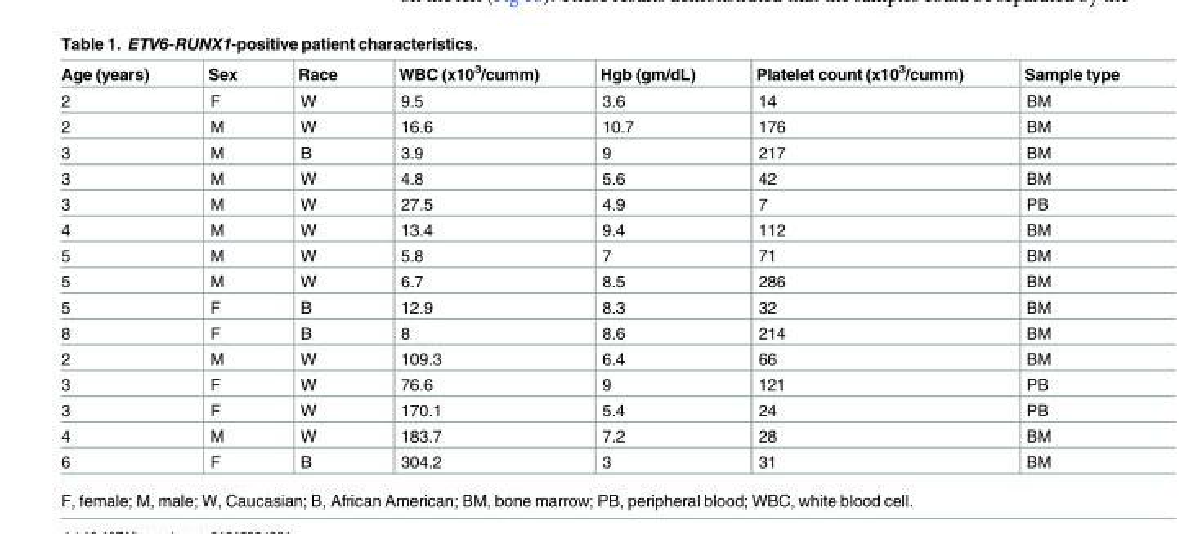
<table><thead><tr><td>Age (years)</td><td>Sex</td><td>Race</td><td>WBC (x10<sup>3</sup>/cumm)</td><td>Hgb (gm/dL)</td><td>Platelet count (x10<sup>3</sup>/cumm)</td><td>Sample type</td></tr></thead><tbody><tr><td>2</td><td>F</td><td>W</td><td>9.5</td><td>3.6</td><td>14</td><td>BM</td></tr><tr><td>2</td><td>M</td><td>W</td><td>16.6</td><td>10.7</td><td>176</td><td>BM</td></tr><tr><td>3</td><td>M</td><td>B</td><td>3.9</td><td>9</td><td>217</td><td>BM</td></tr><tr><td>3</td><td>M</td><td>W</td><td>4.8</td><td>5.6</td><td>42</td><td>BM</td></tr><tr><td>3</td><td>M</td><td>W</td><td>27.5</td><td>4.9</td><td>7</td><td>PB</td></tr><tr><td>4</td><td>M</td><td>W</td><td>13.4</td><td>9.4</td><td>112</td><td>BM</td></tr><tr><td>5</td><td>M</td><td>W</td><td>5.8</td><td>7</td><td>71</td><td>BM</td></tr><tr><td>5</td><td>M</td><td>W</td><td>6.7</td><td>8.5</td><td>286</td><td>BM</td></tr><tr><td>5</td><td>F</td><td>B</td><td>12.9</td><td>8.3</td><td>32</td><td>BM</td></tr><tr><td>8</td><td>F</td><td>B</td><td>8</td><td>8.6</td><td>214</td><td>BM</td></tr><tr><td>2</td><td>M</td><td>W</td><td>109.3</td><td>6.4</td><td>66</td><td>BM</td></tr><tr><td>3</td><td>F</td><td>W</td><td>76.6</td><td>9</td><td>121</td><td>PB</td></tr><tr><td>3</td><td>F</td><td>W</td><td>170.1</td><td>5.4</td><td>24</td><td>PB</td></tr><tr><td>4</td><td>M</td><td>W</td><td>183.7</td><td>7.2</td><td>28</td><td>BM</td></tr><tr><td>6</td><td>F</td><td>B</td><td>304.2</td><td>3</td><td>31</td><td>BM</td></tr></tbody></table>